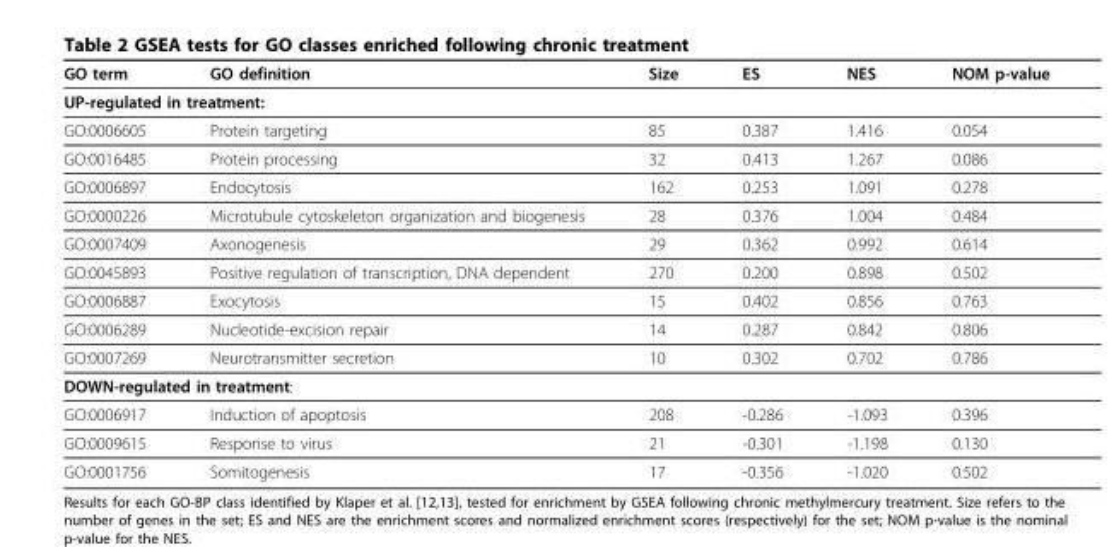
<table><thead><tr><td>GO term</td><td>GO definition</td><td>Size</td><td>ES</td><td>NES</td><td>NOM p-value</td></tr></thead><tbody><tr><td colspan="6">UP-regulated in treatment:</td></tr><tr><td>GO:0006605</td><td>Protein targeting</td><td>85</td><td>0.387</td><td>1.416</td><td>0.054</td></tr><tr><td>GO:0016485</td><td>Protein processing</td><td>32</td><td>0.413</td><td>1.267</td><td>0.086</td></tr><tr><td>GO:0006897</td><td>Endocytosis</td><td>162</td><td>0.253</td><td>1.091</td><td>0.278</td></tr><tr><td>GO:0000226</td><td>Microtubule cytoskeleton organization and biogenesis</td><td>28</td><td>0.376</td><td>1.004</td><td>0.484</td></tr><tr><td>GO:0007409</td><td>Axonogenesis</td><td>29</td><td>0.362</td><td>0.992</td><td>0.614</td></tr><tr><td>GO:0045893</td><td>Positive regulation of transcription, DNA dependent</td><td>270</td><td>0.200</td><td>0.898</td><td>0.502</td></tr><tr><td>GO:0006887</td><td>Exocytosis</td><td>15</td><td>0.402</td><td>0.856</td><td>0.763</td></tr><tr><td>GO:0006289</td><td>Nucleotide-excision repair</td><td>14</td><td>0.287</td><td>0.842</td><td>0.806</td></tr><tr><td>GO:0007269</td><td>Neurotransmitter secretion</td><td>10</td><td>0.302</td><td>0.702</td><td>0.786</td></tr><tr><td colspan="6">DOWN-regulated in treatment:</td></tr><tr><td>GO:0006917</td><td>Induction of apoptosis</td><td>208</td><td>-0.286</td><td>-1.093</td><td>0.396</td></tr><tr><td>GO:0009615</td><td>Response to virus</td><td>21</td><td>-0.301</td><td>-1.198</td><td>0.130</td></tr><tr><td>GO:0001756</td><td>Somitogenesis</td><td>17</td><td>-0.356</td><td>-1.020</td><td>0.502</td></tr></tbody></table>